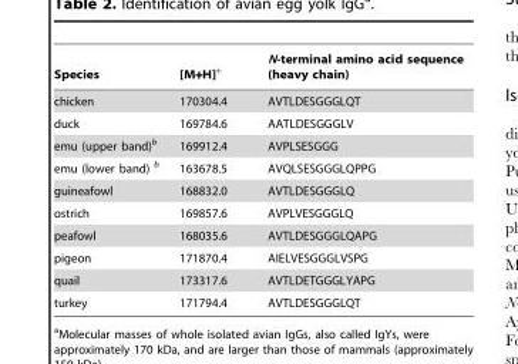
<table><thead><tr><td>Species</td><td>[M+H]<sup>+</sup></td><td>N-terminal amino acid sequence (heavy chain)</td></tr></thead><tbody><tr><td>chicken</td><td>170304.4</td><td>AVTLDESGGGLQT</td></tr><tr><td>duck</td><td>169784.6</td><td>AATLDESGGGLV</td></tr><tr><td>emu (upper band)<sup>b</sup></td><td>169912.4</td><td>AVPLSESGGG</td></tr><tr><td>emu (lower band) b</td><td>163678.5</td><td>AVQLSESGGGLQPPG</td></tr><tr><td>guineafowl</td><td>168832.0</td><td>AVTLDESGGGLQ</td></tr><tr><td>ostrich</td><td>169857.6</td><td>AVPLVESGGGLQ</td></tr><tr><td>peafowl</td><td>168035.6</td><td>AVTLDESGGGLQAPG</td></tr><tr><td>pigeon</td><td>171870.4</td><td>AIELVESGGGLVSPG</td></tr><tr><td>quail</td><td>173317.6</td><td>AVTLDETGGGLYAPG</td></tr><tr><td>turkey</td><td>171794.4</td><td>AVTLDESGGGLQT</td></tr></tbody></table>